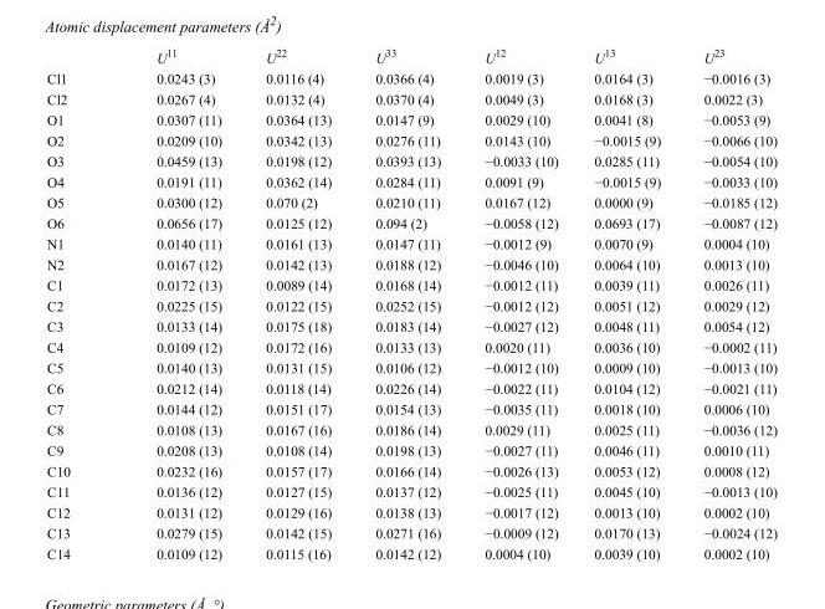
<table><thead><tr><td></td><td>U<sup>11</sup></td><td>U<sup>22</sup></td><td>U<sup>33</sup></td><td>U<sup>12</sup></td><td>U<sup>13</sup></td><td>U<sup>23</sup></td></tr></thead><tbody><tr><td>Cl1</td><td>0.0243 (3)</td><td>0.0116 (4)</td><td>0.0366 (4)</td><td>0.0019 (3)</td><td>0.0164 (3)</td><td>−0.0016 (3)</td></tr><tr><td>Cl2</td><td>0.0267 (4)</td><td>0.0132 (4)</td><td>0.0370 (4)</td><td>0.0049 (3)</td><td>0.0168 (3)</td><td>0.0022 (3)</td></tr><tr><td>O1</td><td>0.0307 (11)</td><td>0.0364 (13)</td><td>0.0147 (9)</td><td>0.0029 (10)</td><td>0.0041 (8)</td><td>−0.0053 (9)</td></tr><tr><td>O2</td><td>0.0209 (10)</td><td>0.0342 (13)</td><td>0.0276 (11)</td><td>0.0143 (10)</td><td>−0.0015 (9)</td><td>−0.0066 (10)</td></tr><tr><td>O3</td><td>0.0459 (13)</td><td>0.0198 (12)</td><td>0.0393 (13)</td><td>−0.0033 (10)</td><td>0.0285 (11)</td><td>−0.0054 (10)</td></tr><tr><td>O4</td><td>0.0191 (11)</td><td>0.0362 (14)</td><td>0.0284 (11)</td><td>0.0091 (9)</td><td>−0.0015 (9)</td><td>−0.0033 (10)</td></tr><tr><td>O5</td><td>0.0300 (12)</td><td>0.070 (2)</td><td>0.0210 (11)</td><td>0.0167 (12)</td><td>0.0000 (9)</td><td>−0.0185 (12)</td></tr><tr><td>O6</td><td>0.0656 (17)</td><td>0.0125 (12)</td><td>0.094 (2)</td><td>−0.0058 (12)</td><td>0.0693 (17)</td><td>−0.0087 (12)</td></tr><tr><td>N1</td><td>0.0140 (11)</td><td>0.0161 (13)</td><td>0.0147 (11)</td><td>−0.0012 (9)</td><td>0.0070 (9)</td><td>0.0004 (10)</td></tr><tr><td>N2</td><td>0.0167 (12)</td><td>0.0142 (13)</td><td>0.0188 (12)</td><td>−0.0046 (10)</td><td>0.0064 (10)</td><td>0.0013 (10)</td></tr><tr><td>C1</td><td>0.0172 (13)</td><td>0.0089 (14)</td><td>0.0168 (14)</td><td>−0.0012 (11)</td><td>0.0039 (11)</td><td>0.0026 (11)</td></tr><tr><td>C2</td><td>0.0225 (15)</td><td>0.0122 (15)</td><td>0.0252 (15)</td><td>−0.0012 (12)</td><td>0.0051 (12)</td><td>0.0029 (12)</td></tr><tr><td>C3</td><td>0.0133 (14)</td><td>0.0175 (18)</td><td>0.0183 (14)</td><td>−0.0027 (12)</td><td>0.0048 (11)</td><td>0.0054 (12)</td></tr><tr><td>C4</td><td>0.0109 (12)</td><td>0.0172 (16)</td><td>0.0133 (13)</td><td>0.0020 (11)</td><td>0.0036 (10)</td><td>−0.0002 (11)</td></tr><tr><td>C5</td><td>0.0140 (13)</td><td>0.0131 (15)</td><td>0.0106 (12)</td><td>−0.0012 (10)</td><td>0.0009 (10)</td><td>−0.0013 (10)</td></tr><tr><td>C6</td><td>0.0212 (14)</td><td>0.0118 (14)</td><td>0.0226 (14)</td><td>−0.0022 (11)</td><td>0.0104 (12)</td><td>−0.0021 (11)</td></tr><tr><td>C7</td><td>0.0144 (12)</td><td>0.0151 (17)</td><td>0.0154 (13)</td><td>−0.0035 (11)</td><td>0.0018 (10)</td><td>0.0006 (10)</td></tr><tr><td>C8</td><td>0.0108 (13)</td><td>0.0167 (16)</td><td>0.0186 (14)</td><td>0.0029 (11)</td><td>0.0025 (11)</td><td>−0.0036 (12)</td></tr><tr><td>C9</td><td>0.0208 (13)</td><td>0.0108 (14)</td><td>0.0198 (13)</td><td>−0.0027 (11)</td><td>0.0046 (11)</td><td>0.0010 (11)</td></tr><tr><td>C10</td><td>0.0232 (16)</td><td>0.0157 (17)</td><td>0.0166 (14)</td><td>−0.0026 (13)</td><td>0.0053 (12)</td><td>0.0008 (12)</td></tr><tr><td>C11</td><td>0.0136 (12)</td><td>0.0127 (15)</td><td>0.0137 (12)</td><td>−0.0025 (11)</td><td>0.0045 (10)</td><td>−0.0013 (10)</td></tr><tr><td>C12</td><td>0.0131 (12)</td><td>0.0129 (16)</td><td>0.0138 (13)</td><td>−0.0017 (12)</td><td>0.0013 (10)</td><td>0.0002 (10)</td></tr><tr><td>C13</td><td>0.0279 (15)</td><td>0.0142 (15)</td><td>0.0271 (16)</td><td>−0.0009 (12)</td><td>0.0170 (13)</td><td>−0.0024 (12)</td></tr><tr><td>C14</td><td>0.0109 (12)</td><td>0.0115 (16)</td><td>0.0142 (12)</td><td>0.0004 (10)</td><td>0.0039 (10)</td><td>0.0002 (10)</td></tr></tbody></table>